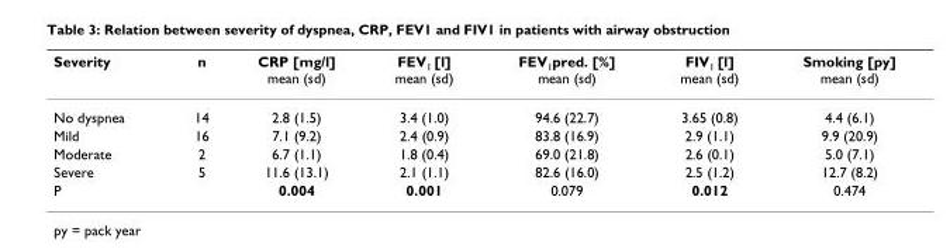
<table><thead><tr><td>Severity</td><td>n</td><td>CRP [mg/l] mean (sd)</td><td>FEV<sub>1</sub> [l] mean (sd)</td><td>FEV<sub>1</sub>pred. [%] mean (sd)</td><td>FIV<sub>1</sub> [l] mean (sd)</td><td>Smoking [py] mean (sd)</td></tr></thead><tbody><tr><td>No dyspnea</td><td>14</td><td>2.8 (1.5)</td><td>3.4 (1.0)</td><td>94.6 (22.7)</td><td>3.65 (0.8)</td><td>4.4 (6.1)</td></tr><tr><td>Mild</td><td>16</td><td>7.1 (9.2)</td><td>2.4 (0.9)</td><td>83.8 (16.9)</td><td>2.9 (1.1)</td><td>9.9 (20.9)</td></tr><tr><td>Moderate</td><td>2</td><td>6.7 (1.1)</td><td>1.8 (0.4)</td><td>69.0 (21.8)</td><td>2.6 (0.1)</td><td>5.0 (7.1)</td></tr><tr><td>Severe</td><td>5</td><td>11.6 (13.1)</td><td>2.1 (1.1)</td><td>82.6 (16.0)</td><td>2.5 (1.2)</td><td>12.7 (8.2)</td></tr><tr><td>P</td><td></td><td>0.004</td><td>0.001</td><td>0.079</td><td>0.012</td><td>0.474</td></tr></tbody></table>